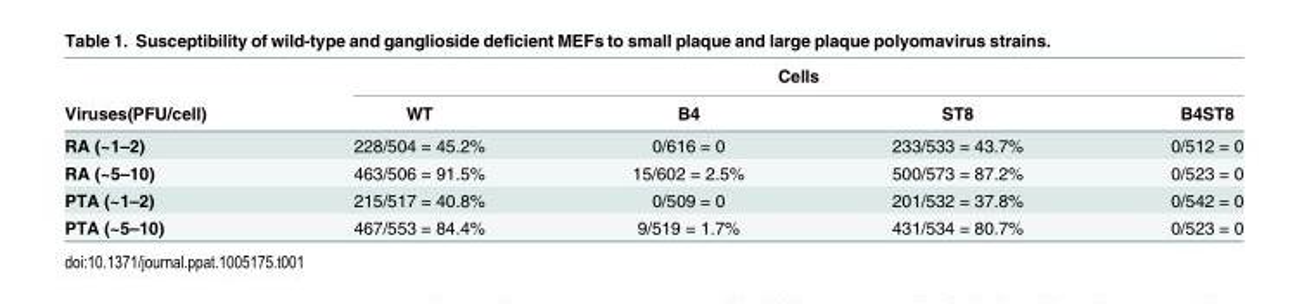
<table><thead><tr><td rowspan="2">Viruses(PFU/cell)</td><td colspan="4">Cells</td></tr><tr><td>WT</td><td>B4</td><td>ST8</td><td>B4ST8</td></tr></thead><tbody><tr><td>RA (~1–2)</td><td>228/504 = 45.2%</td><td>0/616 = 0</td><td>233/533 = 43.7%</td><td>0/512 = 0</td></tr><tr><td>RA (~5–10)</td><td>463/506 = 91.5%</td><td>15/602 = 2.5%</td><td>500/573 = 87.2%</td><td>0/523 = 0</td></tr><tr><td>PTA (~1–2)</td><td>215/517 = 40.8%</td><td>0/509 = 0</td><td>201/532 = 37.8%</td><td>0/542 = 0</td></tr><tr><td>PTA (~5–10)</td><td>467/553 = 84.4%</td><td>9/519 = 1.7%</td><td>431/534 = 80.7%</td><td>0/523 = 0</td></tr></tbody></table>